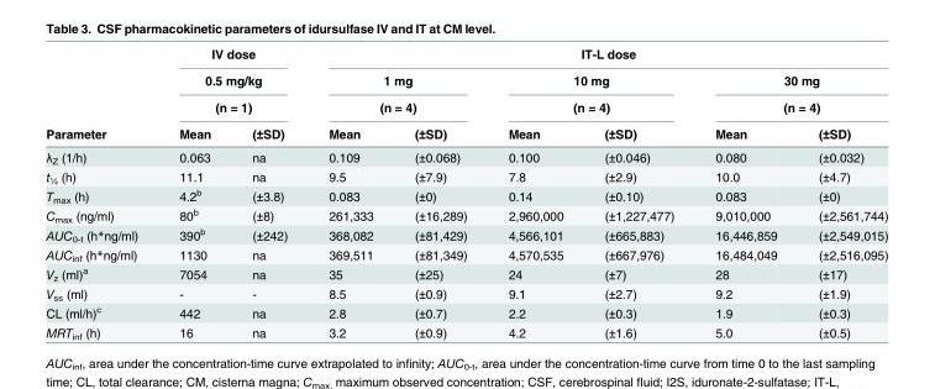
<table><thead><tr><td rowspan="4">Parameter</td><td rowspan="3" colspan="2">IV dose 0.5 mg/kg (n = 1)</td><td colspan="6">IT-L dose</td></tr><tr><td rowspan="2" colspan="2">1 mg (n = 4)</td><td rowspan="2" colspan="2">10 mg (n = 4)</td><td rowspan="2" colspan="2">30 mg (n = 4)</td></tr><tr></tr><tr><td>Mean</td><td>(±SD)</td><td>Mean</td><td>(±SD)</td><td>Mean</td><td>(±SD)</td><td>Mean</td><td>(±SD)</td></tr></thead><tbody><tr><td>λ<sub>Z</sub> (1/h)</td><td>0.063</td><td>na</td><td>0.109</td><td>(±0.068)</td><td>0.100</td><td>(±0.046)</td><td>0.080</td><td>(±0.032)</td></tr><tr><td>t<sub>½</sub> (h)</td><td>11.1</td><td>na</td><td>9.5</td><td>(±7.9)</td><td>7.8</td><td>(±2.9)</td><td>10.0</td><td>(±4.7)</td></tr><tr><td>T<sub>max</sub> (h)</td><td>4.2<sup>b</sup></td><td>(±3.8)</td><td>0.083</td><td>(±0)</td><td>0.14</td><td>(±0.10)</td><td>0.083</td><td>(±0)</td></tr><tr><td>C<sub>max</sub> (ng/ml)</td><td>80<sup>b</sup></td><td>(±8)</td><td>261,333</td><td>(±16,289)</td><td>2,960,000</td><td>(±1,227,477)</td><td>9,010,000</td><td>(±2,561,744)</td></tr><tr><td>AUC<sub>0-t</sub> (h*ng/ml)</td><td>390<sup>b</sup></td><td>(±242)</td><td>368,082</td><td>(±81,429)</td><td>4,566,101</td><td>(±665,883)</td><td>16,446,859</td><td>(±2,549,015)</td></tr><tr><td>AUC<sub>inf</sub> (h*ng/ml)</td><td>1130</td><td>na</td><td>369,511</td><td>(±81,349)</td><td>4,570,535</td><td>(±667,976)</td><td>16,484,049</td><td>(±2,516,095)</td></tr><tr><td>V<sub>z</sub> (ml)<sup>a</sup></td><td>7054</td><td>na</td><td>35</td><td>(±25)</td><td>24</td><td>(±7)</td><td>28</td><td>(±17)</td></tr><tr><td>V<sub>ss</sub> (ml)</td><td>-</td><td>-</td><td>8.5</td><td>(±0.9)</td><td>9.1</td><td>(±2.7)</td><td>9.2</td><td>(±1.9)</td></tr><tr><td>CL (ml/h)<sup>c</sup></td><td>442</td><td>na</td><td>2.8</td><td>(±0.7)</td><td>2.2</td><td>(±0.3)</td><td>1.9</td><td>(±0.3)</td></tr><tr><td>MRT<sub>inf</sub> (h)</td><td>16</td><td>na</td><td>3.2</td><td>(±0.9)</td><td>4.2</td><td>(±1.6)</td><td>5.0</td><td>(±0.5)</td></tr></tbody></table>